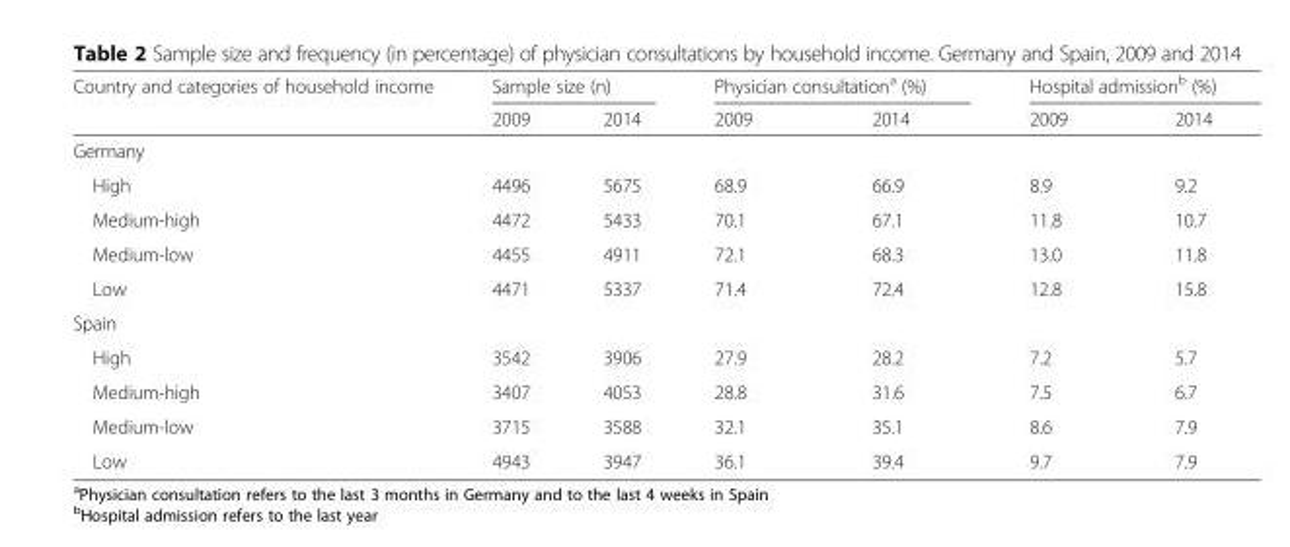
<table><thead><tr><td rowspan="2">Country and categories of household income</td><td colspan="2">Sample size (n)</td><td colspan="2">Physician consultation<sup>a</sup> (%)</td><td colspan="2">Hospital admission<sup>b</sup> (%)</td></tr><tr><td>2009</td><td>2014</td><td>2009</td><td>2014</td><td>2009</td><td>2014</td></tr></thead><tbody><tr><td colspan="7">Germany</td></tr><tr><td>High</td><td>4496</td><td>5675</td><td>68.9</td><td>66.9</td><td>8.9</td><td>9.2</td></tr><tr><td>Medium-high</td><td>4472</td><td>5433</td><td>70.1</td><td>67.1</td><td>11.8</td><td>10.7</td></tr><tr><td>Medium-low</td><td>4455</td><td>4911</td><td>72.1</td><td>68.3</td><td>13.0</td><td>11.8</td></tr><tr><td>Low</td><td>4471</td><td>5337</td><td>71.4</td><td>72.4</td><td>12.8</td><td>15.8</td></tr><tr><td colspan="7">Spain</td></tr><tr><td>High</td><td>3542</td><td>3906</td><td>27.9</td><td>28.2</td><td>7.2</td><td>5.7</td></tr><tr><td>Medium-high</td><td>3407</td><td>4053</td><td>28.8</td><td>31.6</td><td>7.5</td><td>6.7</td></tr><tr><td>Medium-low</td><td>3715</td><td>3588</td><td>32.1</td><td>35.1</td><td>8.6</td><td>7.9</td></tr><tr><td>Low</td><td>4943</td><td>3947</td><td>36.1</td><td>39.4</td><td>9.7</td><td>7.9</td></tr></tbody></table>